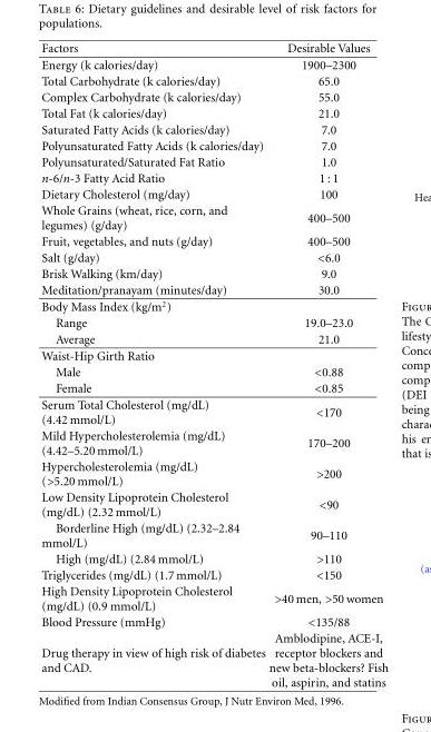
<table><thead><tr><td>Factors</td><td>Desirable Values</td></tr></thead><tbody><tr><td>Energy (k calories/day)</td><td>1900–2300</td></tr><tr><td>Total Carbohydrate (k calories/day)</td><td>65.0</td></tr><tr><td>Complex Carbohydrate (k calories/day)</td><td>55.0</td></tr><tr><td>Total Fat (k calories/day)</td><td>21.0</td></tr><tr><td>Saturated Fatty Acids (k calories/day)</td><td>7.0</td></tr><tr><td>Polyunsaturated Fatty Acids (k calories/day)</td><td>7.0</td></tr><tr><td>Polyunsaturated/Saturated Fat Ratio</td><td>1.0</td></tr><tr><td>n-6/n-3 Fatty Acid Ratio</td><td>1 : 1</td></tr><tr><td>Dietary Cholesterol (mg/day)</td><td>100</td></tr><tr><td>Whole Grains (wheat, rice, corn, and legumes) (g/day)</td><td>400–500</td></tr><tr><td>Fruit, vegetables, and nuts (g/day)</td><td>400–500</td></tr><tr><td>Salt (g/day)</td><td>&lt;6.0</td></tr><tr><td>Brisk Walking (km/day)</td><td>9.0</td></tr><tr><td>Meditation/pranayam (minutes/day)</td><td>30.0</td></tr><tr><td colspan="2">Body Mass Index (kg/m<sup>2</sup>)</td></tr><tr><td>Range</td><td>19.0–23.0</td></tr><tr><td>Average</td><td>21.0</td></tr><tr><td colspan="2">Waist-Hip Girth Ratio</td></tr><tr><td>Male</td><td>&lt;0.88</td></tr><tr><td>Female</td><td>&lt;0.85</td></tr><tr><td>Serum Total Cholesterol (mg/dL) (4.42 mmol/L)</td><td>&lt;170</td></tr><tr><td>Mild Hypercholesterolemia (mg/dL) (4.42–5.20 mmol/L)</td><td>170–200</td></tr><tr><td>Hypercholesterolemia (mg/dL) (&gt;5.20 mmol/L)</td><td>&gt;200</td></tr><tr><td>Low Density Lipoprotein Cholesterol (mg/dL) (2.32 mmol/L)</td><td>&lt;90</td></tr><tr><td>Borderline High (mg/dL) (2.32–2.84 mmol/L)</td><td>90–110</td></tr><tr><td>High (mg/dL) (2.84 mmol/L)</td><td>&gt;110</td></tr><tr><td>Triglycerides (mg/dL) (1.7 mmol/L)</td><td>&lt;150</td></tr><tr><td>High Density Lipoprotein Cholesterol (mg/dL) (0.9 mmol/L)</td><td>&gt;40 men, &gt;50 women</td></tr><tr><td>Blood Pressure (mmHg)</td><td>&lt;135/88</td></tr><tr><td>Drug therapy in view of high risk of diabetes and CAD.</td><td>Amblodipine, ACE-I, receptor blockers and new beta-blockers? Fish oil, aspirin, and statins</td></tr></tbody></table>